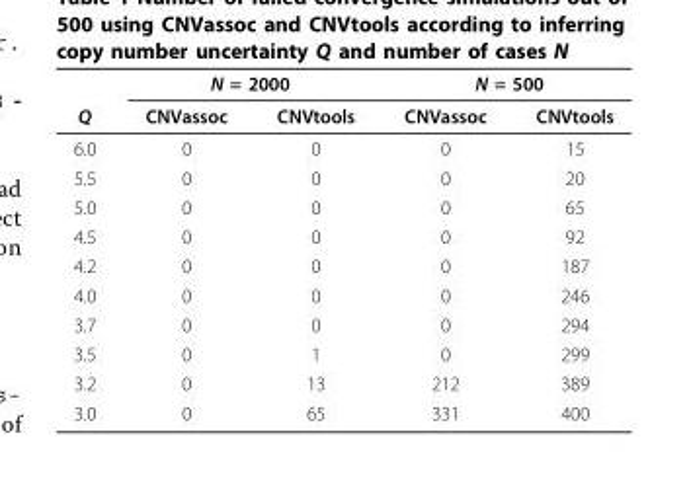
<table><thead><tr><td rowspan="2">Q</td><td colspan="2">N = 2000</td><td colspan="2">N = 500</td></tr><tr><td>CNVassoc</td><td>CNVtools</td><td>CNVassoc</td><td>CNVtools</td></tr></thead><tbody><tr><td>6.0</td><td>0</td><td>0</td><td>0</td><td>15</td></tr><tr><td>5.5</td><td>0</td><td>0</td><td>0</td><td>20</td></tr><tr><td>5.0</td><td>0</td><td>0</td><td>0</td><td>65</td></tr><tr><td>4.5</td><td>0</td><td>0</td><td>0</td><td>92</td></tr><tr><td>4.2</td><td>0</td><td>0</td><td>0</td><td>187</td></tr><tr><td>4.0</td><td>0</td><td>0</td><td>0</td><td>246</td></tr><tr><td>3.7</td><td>0</td><td>0</td><td>0</td><td>294</td></tr><tr><td>3.5</td><td>0</td><td>1</td><td>0</td><td>299</td></tr><tr><td>3.2</td><td>0</td><td>13</td><td>212</td><td>389</td></tr><tr><td>3.0</td><td>0</td><td>65</td><td>331</td><td>400</td></tr></tbody></table>